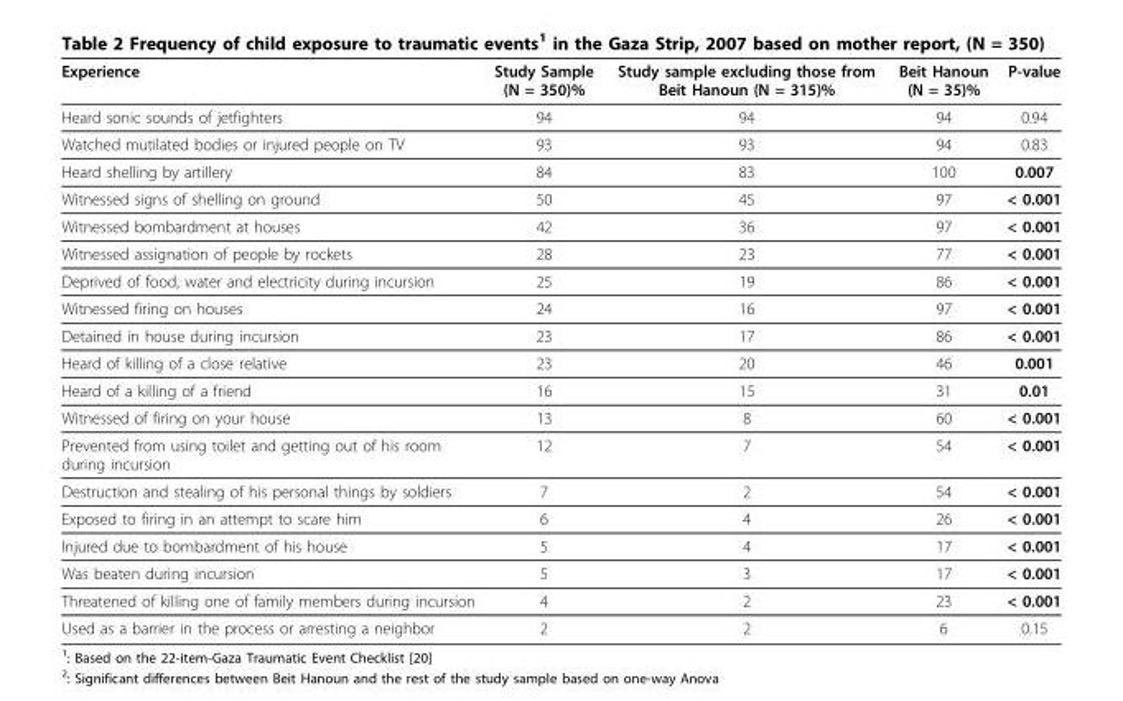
<table><thead><tr><td>Experience</td><td>Study Sample (N = 350)%</td><td>Study sample excluding those from Beit Hanoun (N = 315)%</td><td>Beit Hanoun (N = 35)%</td><td>P-value</td></tr></thead><tbody><tr><td>Heard sonic sounds of jetfighters</td><td>94</td><td>94</td><td>94</td><td>0.94</td></tr><tr><td>Watched mutilated bodies or injured people on TV</td><td>93</td><td>93</td><td>94</td><td>0.83</td></tr><tr><td>Heard shelling by artillery</td><td>84</td><td>83</td><td>100</td><td>0.007</td></tr><tr><td>Witnessed signs of shelling on ground</td><td>50</td><td>45</td><td>97</td><td>&lt; 0.001</td></tr><tr><td>Witnessed bombardment at houses</td><td>42</td><td>36</td><td>97</td><td>&lt; 0.001</td></tr><tr><td>Witnessed assignation of people by rockets</td><td>28</td><td>23</td><td>77</td><td>&lt; 0.001</td></tr><tr><td>Deprived of food, water and electricity during incursion</td><td>25</td><td>19</td><td>86</td><td>&lt; 0.001</td></tr><tr><td>Witnessed firing on houses</td><td>24</td><td>16</td><td>97</td><td>&lt; 0.001</td></tr><tr><td>Detained in house during incursion</td><td>23</td><td>17</td><td>86</td><td>&lt; 0.001</td></tr><tr><td>Heard of killing of a close relative</td><td>23</td><td>20</td><td>46</td><td>0.001</td></tr><tr><td>Heard of a killing of a friend</td><td>16</td><td>15</td><td>31</td><td>0.01</td></tr><tr><td>Witnessed of firing on your house</td><td>13</td><td>8</td><td>60</td><td>&lt; 0.001</td></tr><tr><td>Prevented from using toilet and getting out of his room during incursion</td><td>12</td><td>7</td><td>54</td><td>&lt; 0.001</td></tr><tr><td>Destruction and stealing of his personal things by soldiers</td><td>7</td><td>2</td><td>54</td><td>&lt; 0.001</td></tr><tr><td>Exposed to firing in an attempt to scare him</td><td>6</td><td>4</td><td>26</td><td>&lt; 0.001</td></tr><tr><td>Injured due to bombardment of his house</td><td>5</td><td>4</td><td>17</td><td>&lt; 0.001</td></tr><tr><td>Was beaten during incursion</td><td>5</td><td>3</td><td>17</td><td>&lt; 0.001</td></tr><tr><td>Threatened of killing one of family members during incursion</td><td>4</td><td>2</td><td>23</td><td>&lt; 0.001</td></tr><tr><td>Used as a barrier in the process or arresting a neighbor</td><td>2</td><td>2</td><td>6</td><td>0.15</td></tr></tbody></table>